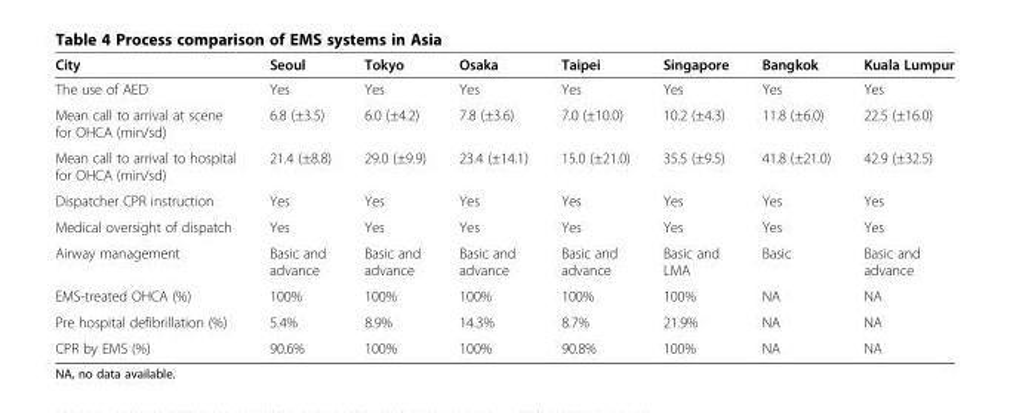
<table><thead><tr><td>City</td><td>Seoul</td><td>Tokyo</td><td>Osaka</td><td>Taipei</td><td>Singapore</td><td>Bangkok</td><td>Kuala Lumpur</td></tr></thead><tbody><tr><td>The use of AED</td><td>Yes</td><td>Yes</td><td>Yes</td><td>Yes</td><td>Yes</td><td>Yes</td><td>Yes</td></tr><tr><td>Mean call to arrival at scene for OHCA (min/sd)</td><td>6.8 (±3.5)</td><td>6.0 (±4.2)</td><td>7.8 (±3.6)</td><td>7.0 (±10.0)</td><td>10.2 (±4.3)</td><td>11.8 (±6.0)</td><td>22.5 (±16.0)</td></tr><tr><td>Mean call to arrival to hospital for OHCA (min/sd)</td><td>21.4 (±8.8)</td><td>29.0 (±9.9)</td><td>23.4 (±14.1)</td><td>15.0 (±21.0)</td><td>35.5 (±9.5)</td><td>41.8 (±21.0)</td><td>42.9 (±32.5)</td></tr><tr><td>Dispatcher CPR instruction</td><td>Yes</td><td>Yes</td><td>Yes</td><td>Yes</td><td>Yes</td><td>Yes</td><td>Yes</td></tr><tr><td>Medical oversight of dispatch</td><td>Yes</td><td>Yes</td><td>Yes</td><td>Yes</td><td>Yes</td><td>Yes</td><td>Yes</td></tr><tr><td>Airway management</td><td>Basic and advance</td><td>Basic and advance</td><td>Basic and advance</td><td>Basic and advance</td><td>Basic and LMA</td><td>Basic</td><td>Basic and advance</td></tr><tr><td>EMS-treated OHCA (%)</td><td>100%</td><td>100%</td><td>100%</td><td>100%</td><td>100%</td><td>NA</td><td>NA</td></tr><tr><td>Pre hospital defibrillation (%)</td><td>5.4%</td><td>8.9%</td><td>14.3%</td><td>8.7%</td><td>21.9%</td><td>NA</td><td>NA</td></tr><tr><td>CPR by EMS (%)</td><td>90.6%</td><td>100%</td><td>100%</td><td>90.8%</td><td>100%</td><td>NA</td><td>NA</td></tr></tbody></table>